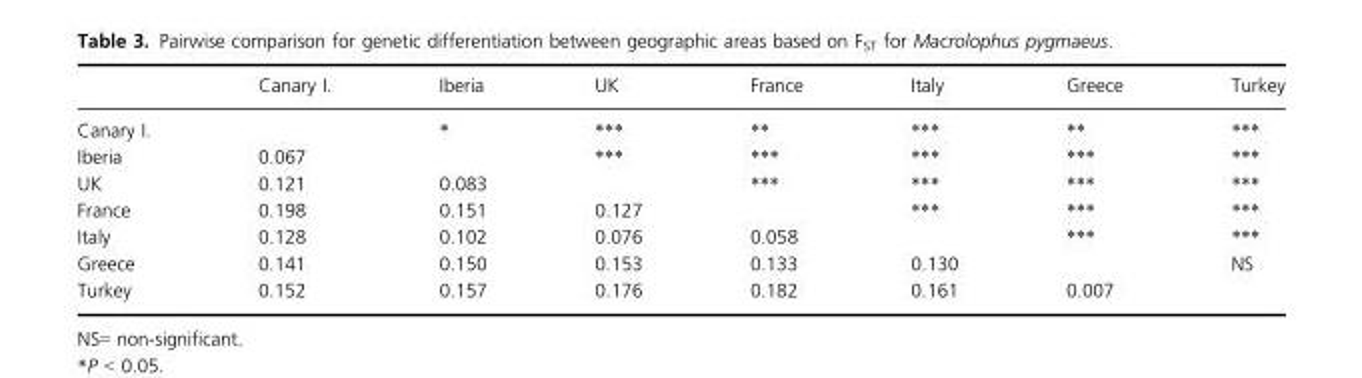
<table><thead><tr><td></td><td>Canary I.</td><td>Iberia</td><td>UK</td><td>France</td><td>Italy</td><td>Greece</td><td>Turkey</td></tr></thead><tbody><tr><td>Canary I.</td><td></td><td>*</td><td>***</td><td>**</td><td>***</td><td>**</td><td>***</td></tr><tr><td>Iberia</td><td>0.067</td><td></td><td>***</td><td>***</td><td>***</td><td>***</td><td>***</td></tr><tr><td>UK</td><td>0.121</td><td>0.083</td><td></td><td>***</td><td>***</td><td>***</td><td>***</td></tr><tr><td>France</td><td>0.198</td><td>0.151</td><td>0.127</td><td></td><td>***</td><td>***</td><td>***</td></tr><tr><td>Italy</td><td>0.128</td><td>0.102</td><td>0.076</td><td>0.058</td><td></td><td>***</td><td>***</td></tr><tr><td>Greece</td><td>0.141</td><td>0.150</td><td>0.153</td><td>0.133</td><td>0.130</td><td></td><td>NS</td></tr><tr><td>Turkey</td><td>0.152</td><td>0.157</td><td>0.176</td><td>0.182</td><td>0.161</td><td>0.007</td><td></td></tr></tbody></table>